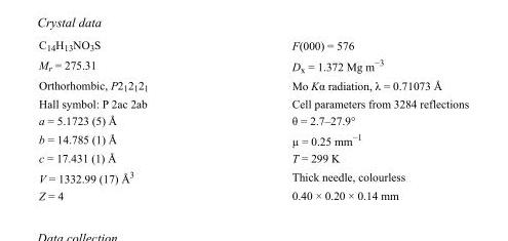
<table><tbody><tr><td>C<sub>14</sub>H<sub>13</sub>NO<sub>3</sub>S</td><td>F(000) = 576</td></tr><tr><td>M<sub>r</sub> = 275.31</td><td>D<sub>x</sub> = 1.372 Mg m<sup>−3</sup></td></tr><tr><td>Orthorhombic, P2<sub>1</sub>2<sub>1</sub>2<sub>1</sub></td><td>Mo Kα radiation, λ = 0.71073 Å</td></tr><tr><td>Hall symbol: P 2ac 2ab</td><td>Cell parameters from 3284 reflections</td></tr><tr><td>a = 5.1723 (5) Å</td><td>θ = 2.7–27.9°</td></tr><tr><td>b = 14.785 (1) Å</td><td>µ = 0.25 mm<sup>−1</sup></td></tr><tr><td>c = 17.431 (1) Å</td><td>T = 299 K</td></tr><tr><td>V = 1332.99 (17) Å<sup>3</sup></td><td>Thick needle, colourless</td></tr><tr><td>Z = 4</td><td>0.40 × 0.20 × 0.14 mm</td></tr></tbody></table>